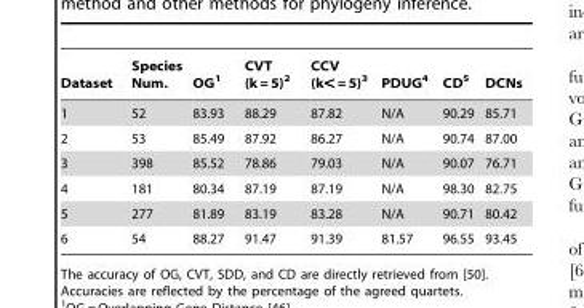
<table><thead><tr><td>Dataset</td><td>Species Num.</td><td>OG<sup>1</sup></td><td>CVT (k = 5)<sup>2</sup></td><td>CCV (k&lt; = 5)<sup>3</sup></td><td>PDUG<sup>4</sup></td><td>CD<sup>5</sup></td><td>DCNs</td></tr></thead><tbody><tr><td>1</td><td>52</td><td>83.93</td><td>88.29</td><td>87.82</td><td>N/A</td><td>90.29</td><td>85.71</td></tr><tr><td>2</td><td>53</td><td>85.49</td><td>87.92</td><td>86.27</td><td>N/A</td><td>90.74</td><td>87.00</td></tr><tr><td>3</td><td>398</td><td>85.52</td><td>78.86</td><td>79.03</td><td>N/A</td><td>90.07</td><td>76.71</td></tr><tr><td>4</td><td>181</td><td>80.34</td><td>87.19</td><td>87.19</td><td>N/A</td><td>98.30</td><td>82.75</td></tr><tr><td>5</td><td>277</td><td>81.89</td><td>83.19</td><td>83.28</td><td>N/A</td><td>90.71</td><td>80.42</td></tr><tr><td>6</td><td>54</td><td>88.27</td><td>91.47</td><td>91.39</td><td>81.57</td><td>96.55</td><td>93.45</td></tr></tbody></table>